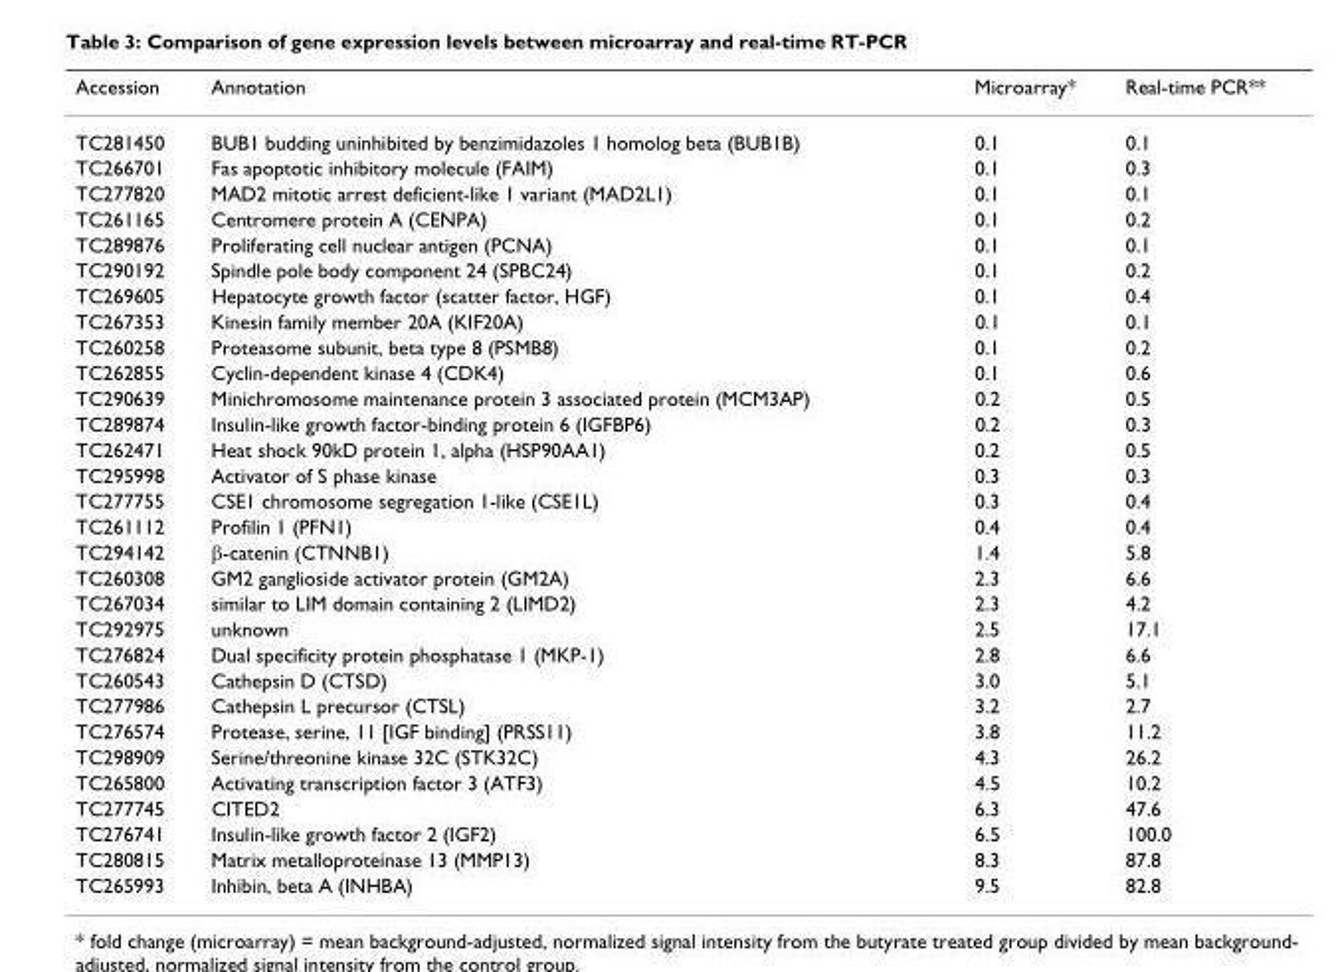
<table><thead><tr><td>Accession</td><td>Annotation</td><td>Microarray*</td><td>Real-time PCR**</td></tr></thead><tbody><tr><td>TC281450</td><td>BUB1 budding uninhibited by benzimidazoles 1 homolog beta (BUB1B)</td><td>0.1</td><td>0.1</td></tr><tr><td>TC266701</td><td>Fas apoptotic inhibitory molecule (FAIM)</td><td>0.1</td><td>0.3</td></tr><tr><td>TC277820</td><td>MAD2 mitotic arrest deficient-like 1 variant (MAD2L1)</td><td>0.1</td><td>0.1</td></tr><tr><td>TC261165</td><td>Centromere protein A (CENPA)</td><td>0.1</td><td>0.2</td></tr><tr><td>TC289876</td><td>Proliferating cell nuclear antigen (PCNA)</td><td>0.1</td><td>0.1</td></tr><tr><td>TC290192</td><td>Spindle pole body component 24 (SPBC24)</td><td>0.1</td><td>0.2</td></tr><tr><td>TC269605</td><td>Hepatocyte growth factor (scatter factor, HGF)</td><td>0.1</td><td>0.4</td></tr><tr><td>TC267353</td><td>Kinesin family member 20A (KIF20A)</td><td>0.1</td><td>0.1</td></tr><tr><td>TC260258</td><td>Proteasome subunit, beta type 8 (PSMB8)</td><td>0.1</td><td>0.2</td></tr><tr><td>TC262855</td><td>Cyclin-dependent kinase 4 (CDK4)</td><td>0.1</td><td>0.6</td></tr><tr><td>TC290639</td><td>Minichromosome maintenance protein 3 associated protein (MCM3AP)</td><td>0.2</td><td>0.5</td></tr><tr><td>TC289874</td><td>Insulin-like growth factor-binding protein 6 (IGFBP6)</td><td>0.2</td><td>0.3</td></tr><tr><td>TC262471</td><td>Heat shock 90kD protein 1, alpha (HSP90AA1)</td><td>0.2</td><td>0.5</td></tr><tr><td>TC295998</td><td>Activator of S phase kinase</td><td>0.3</td><td>0.3</td></tr><tr><td>TC277755</td><td>CSE1 chromosome segregation 1-like (CSE1L)</td><td>0.3</td><td>0.4</td></tr><tr><td>TC261112</td><td>Profilin 1 (PFN1)</td><td>0.4</td><td>0.4</td></tr><tr><td>TC294142</td><td>β-catenin (CTNNB1)</td><td>1.4</td><td>5.8</td></tr><tr><td>TC260308</td><td>GM2 ganglioside activator protein (GM2A)</td><td>2.3</td><td>6.6</td></tr><tr><td>TC267034</td><td>similar to LIM domain containing 2 (LIMD2)</td><td>2.3</td><td>4.2</td></tr><tr><td>TC292975</td><td>unknown</td><td>2.5</td><td>17.1</td></tr><tr><td>TC276824</td><td>Dual specificity protein phosphatase 1 (MKP-1)</td><td>2.8</td><td>6.6</td></tr><tr><td>TC260543</td><td>Cathepsin D (CTSD)</td><td>3.0</td><td>5.1</td></tr><tr><td>TC277986</td><td>Cathepsin L precursor (CTSL)</td><td>3.2</td><td>2.7</td></tr><tr><td>TC276574</td><td>Protease, serine, 11 [IGF binding] (PRSS11)</td><td>3.8</td><td>11.2</td></tr><tr><td>TC298909</td><td>Serine/threonine kinase 32C (STK32C)</td><td>4.3</td><td>26.2</td></tr><tr><td>TC265800</td><td>Activating transcription factor 3 (ATF3)</td><td>4.5</td><td>10.2</td></tr><tr><td>TC277745</td><td>CITED2</td><td>6.3</td><td>47.6</td></tr><tr><td>TC276741</td><td>Insulin-like growth factor 2 (IGF2)</td><td>6.5</td><td>100.0</td></tr><tr><td>TC280815</td><td>Matrix metalloproteinase 13 (MMP13)</td><td>8.3</td><td>87.8</td></tr><tr><td>TC265993</td><td>Inhibin, beta A (INHBA)</td><td>9.5</td><td>82.8</td></tr></tbody></table>